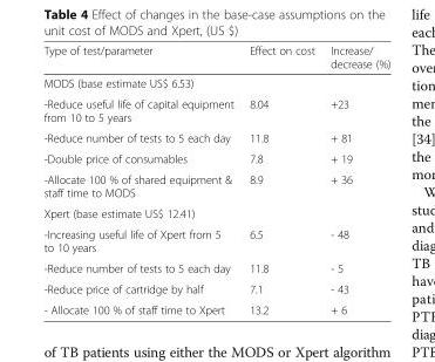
<table><thead><tr><td>Type of test/parameter</td><td>Effect on cost</td><td>Increase/ decrease (%)</td></tr></thead><tbody><tr><td colspan="3">MODS (base estimate US$ 6.53)</td></tr><tr><td>-Reduce useful life of capital equipment from 10 to 5 years</td><td>8.04</td><td>+23</td></tr><tr><td>-Reduce number of tests to 5 each day</td><td>11.8</td><td>+ 81</td></tr><tr><td>-Double price of consumables</td><td>7.8</td><td>+ 19</td></tr><tr><td>-Allocate 100 % of shared equipment &amp; staff time to MODS</td><td>8.9</td><td>+ 36</td></tr><tr><td colspan="3">Xpert (base estimate US$ 12.41)</td></tr><tr><td>-Increasing useful life of Xpert from 5 to 10 years</td><td>6.5</td><td>- 48</td></tr><tr><td>-Reduce number of tests to 5 each day</td><td>11.8</td><td>- 5</td></tr><tr><td>-Reduce price of cartridge by half</td><td>7.1</td><td>- 43</td></tr><tr><td>- Allocate 100 % of staff time to Xpert</td><td>13.2</td><td>+ 6</td></tr></tbody></table>